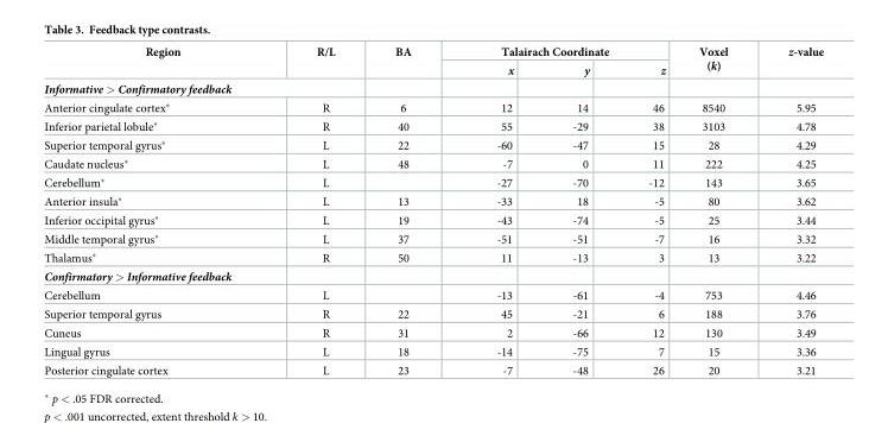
<table><thead><tr><td rowspan="2">Region</td><td rowspan="2">R/L</td><td rowspan="2">BA</td><td colspan="3">Talairach Coordinate</td><td rowspan="2">Voxel (k)</td><td rowspan="2">z-value</td></tr><tr><td>x</td><td>y</td><td>z</td></tr></thead><tbody><tr><td colspan="8">Informative &gt; Confirmatory feedback</td></tr><tr><td>Anterior cingulate cortex*</td><td>R</td><td>6</td><td>12</td><td>14</td><td>46</td><td>8540</td><td>5.95</td></tr><tr><td>Inferior parietal lobule*</td><td>R</td><td>40</td><td>55</td><td>-29</td><td>38</td><td>3103</td><td>4.78</td></tr><tr><td>Superior temporal gyrus*</td><td>L</td><td>22</td><td>-60</td><td>-47</td><td>15</td><td>28</td><td>4.29</td></tr><tr><td>Caudate nucleus*</td><td>L</td><td>48</td><td>-7</td><td>0</td><td>11</td><td>222</td><td>4.25</td></tr><tr><td>Cerebellum*</td><td>L</td><td></td><td>-27</td><td>-70</td><td>-12</td><td>143</td><td>3.65</td></tr><tr><td>Anterior insula*</td><td>L</td><td>13</td><td>-33</td><td>18</td><td>-5</td><td>80</td><td>3.62</td></tr><tr><td>Inferior occipital gyrus*</td><td>L</td><td>19</td><td>-43</td><td>-74</td><td>-5</td><td>25</td><td>3.44</td></tr><tr><td>Middle temporal gyrus*</td><td>L</td><td>37</td><td>-51</td><td>-51</td><td>-7</td><td>16</td><td>3.32</td></tr><tr><td>Thalamus*</td><td>R</td><td>50</td><td>11</td><td>-13</td><td>3</td><td>13</td><td>3.22</td></tr><tr><td colspan="8">Confirmatory &gt; Informative feedback</td></tr><tr><td>Cerebellum</td><td>L</td><td></td><td>-13</td><td>-61</td><td>-4</td><td>753</td><td>4.46</td></tr><tr><td>Superior temporal gyrus</td><td>R</td><td>22</td><td>45</td><td>-21</td><td>6</td><td>188</td><td>3.76</td></tr><tr><td>Cuneus</td><td>R</td><td>31</td><td>2</td><td>-66</td><td>12</td><td>130</td><td>3.49</td></tr><tr><td>Lingual gyrus</td><td>L</td><td>18</td><td>-14</td><td>-75</td><td>7</td><td>15</td><td>3.36</td></tr><tr><td>Posterior cingulate cortex</td><td>L</td><td>23</td><td>-7</td><td>-48</td><td>26</td><td>20</td><td>3.21</td></tr></tbody></table>